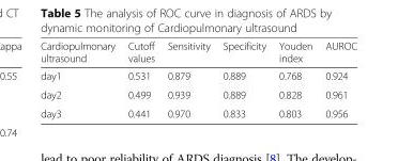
<table><thead><tr><td>Cardiopulmonary ultrasound</td><td>Cutoff values</td><td>Sensitivity</td><td>Specificity</td><td>Youden index</td><td>AUROC</td></tr></thead><tbody><tr><td>day1</td><td>0.531</td><td>0.879</td><td>0.889</td><td>0.768</td><td>0.924</td></tr><tr><td>day2</td><td>0.499</td><td>0.939</td><td>0.889</td><td>0.828</td><td>0.961</td></tr><tr><td>day3</td><td>0.441</td><td>0.970</td><td>0.833</td><td>0.803</td><td>0.956</td></tr></tbody></table>